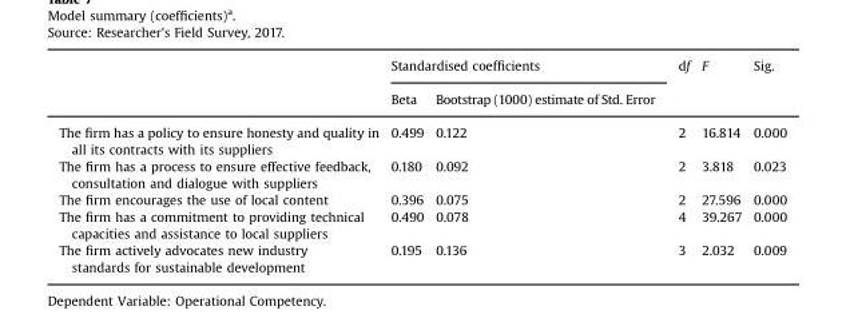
<table><thead><tr><td rowspan="2"></td><td colspan="2">Standardised coefficients</td><td rowspan="2">df</td><td rowspan="2">F</td><td rowspan="2">Sig.</td></tr><tr><td>Beta</td><td>Bootstrap (1000) estimate of Std. Error</td></tr></thead><tbody><tr><td>The firm has a policy to ensure honesty and quality in all its contracts with its suppliers</td><td>0.499</td><td>0.122</td><td>2</td><td>16.814</td><td>0.000</td></tr><tr><td>The firm has a process to ensure effective feedback, consultation and dialogue with suppliers</td><td>0.180</td><td>0.092</td><td>2</td><td>3.818</td><td>0.023</td></tr><tr><td>The firm encourages the use of local content</td><td>0.396</td><td>0.075</td><td>2</td><td>27.596</td><td>0.000</td></tr><tr><td>The firm has a commitment to providing technical capacities and assistance to local suppliers</td><td>0.490</td><td>0.078</td><td>4</td><td>39.267</td><td>0.000</td></tr><tr><td>The firm actively advocates new industry standards for sustainable development</td><td>0.195</td><td>0.136</td><td>3</td><td>2.032</td><td>0.009</td></tr></tbody></table>